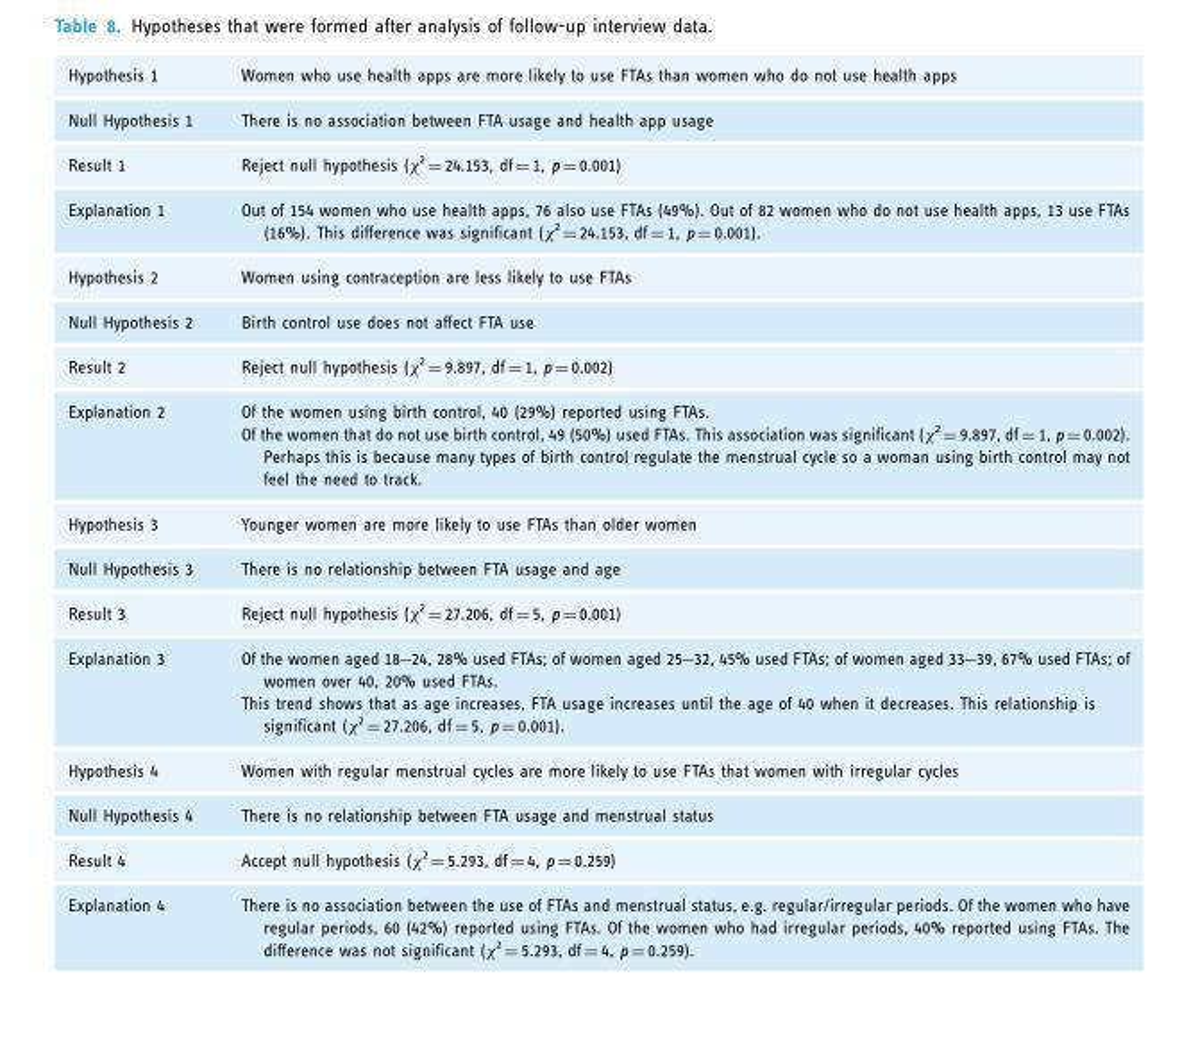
<table><tbody><tr><td>Hypothesis 1</td><td>Women who use health apps are more likely to use FTAs than women who do not use health apps</td></tr><tr><td>Null Hypothesis 1</td><td>There is no association between FTA usage and health app usage</td></tr><tr><td>Result 1</td><td>Reject null hypothesis (χ<sup>2</sup>= 24.153, df = 1, p = 0.001)</td></tr><tr><td>Explanation 1</td><td>Out of 154 women who use health apps, 76 also use FTAs (49%). Out of 82 women who do not use health apps, 13 use FTAs (16%). This difference was significant (χ<sup>2</sup>= 24.153, df = 1, p = 0.001).</td></tr><tr><td>Hypothesis 2</td><td>Women using contraception are less likely to use FTAs</td></tr><tr><td>Null Hypothesis 2</td><td>Birth control use does not affect FTA use</td></tr><tr><td>Result 2</td><td>Reject null hypothesis (χ<sup>2</sup>= 9.897, df = 1, p = 0.002)</td></tr><tr><td>Explanation 2</td><td>Of the women using birth control, 40 (29%) reported using FTAs. Of the women that do not use birth control, 49 (50%) used FTAs. This association was significant (χ<sup>2</sup>= 9.897, df = 1, p = 0.002). Perhaps this is because many types of birth control regulate the menstrual cycle so a woman using birth control may not feel the need to track.</td></tr><tr><td>Hypothesis 3</td><td>Younger women are more likely to use FTAs than older women</td></tr><tr><td>Null Hypothesis 3</td><td>There is no relationship between FTA usage and age</td></tr><tr><td>Result 3</td><td>Reject null hypothesis (χ<sup>2</sup>= 27.206, df = 5, p = 0.001)</td></tr><tr><td>Explanation 3</td><td>Of the women aged 18–24, 28% used FTAs; of women aged 25–32, 45% used FTAs; of women aged 33–39, 67% used FTAs; of women over 40, 20% used FTAs. This trend shows that as age increases, FTA usage increases until the age of 40 when it decreases. This relationship is significant (χ<sup>2</sup>= 27.206, df = 5, p = 0.001).</td></tr><tr><td>Hypothesis 4</td><td>Women with regular menstrual cycles are more likely to use FTAs that women with irregular cycles</td></tr><tr><td>Null Hypothesis 4</td><td>There is no relationship between FTA usage and menstrual status</td></tr><tr><td>Result 4</td><td>Accept null hypothesis (χ<sup>2</sup>= 5.293, df = 4, p = 0.259)</td></tr><tr><td>Explanation 4</td><td>There is no association between the use of FTAs and menstrual status, e.g. regular/irregular periods. Of the women who have regular periods, 60 (42%) reported using FTAs. Of the women who had irregular periods, 40% reported using FTAs. The difference was not significant (χ<sup>2</sup>= 5.293, df = 4, p = 0.259).</td></tr></tbody></table>